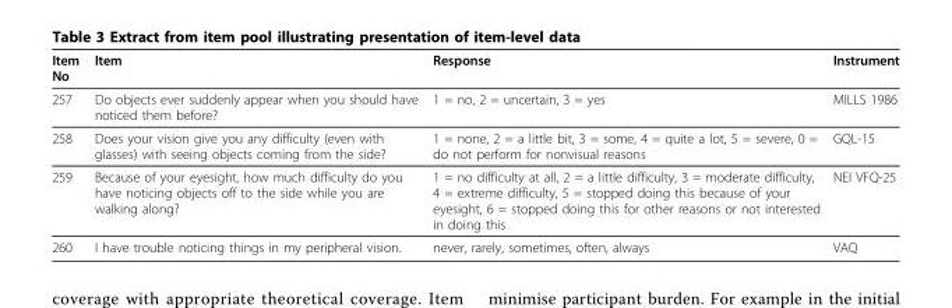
<table><thead><tr><td>Item No</td><td>Item</td><td>Response</td><td>Instrument</td></tr></thead><tbody><tr><td>257</td><td>Do objects ever suddenly appear when you should have noticed them before?</td><td>1 = no, 2 = uncertain, 3 = yes</td><td>MILLS 1986</td></tr><tr><td>258</td><td>Does your vision give you any difficulty (even with glasses) with seeing objects coming from the side?</td><td>1 = none, 2 = a little bit, 3 = some, 4 = quite a lot, 5 = severe, 0 = do not perform for nonvisual reasons</td><td>GQL-15</td></tr><tr><td>259</td><td>Because of your eyesight, how much difficulty do you have noticing objects off to the side while you are walking along?</td><td>1 = no difficulty at all, 2 = a little difficulty, 3 = moderate difficulty, 4 = extreme difficulty, 5 = stopped doing this because of your eyesight, 6 = stopped doing this for other reasons or not interested in doing this</td><td>NEI VFQ-25</td></tr><tr><td>260</td><td>I have trouble noticing things in my peripheral vision.</td><td>never, rarely, sometimes, often, always</td><td>VAQ</td></tr></tbody></table>